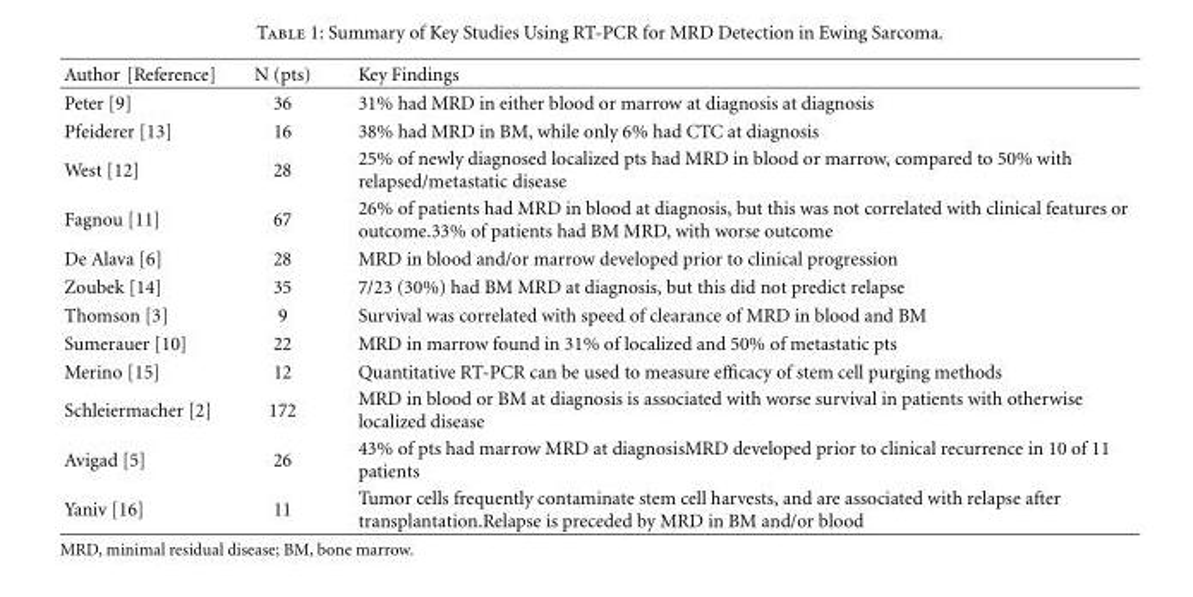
<table><thead><tr><td>Author [Reference]</td><td>N (pts)</td><td>Key Findings</td></tr></thead><tbody><tr><td>Peter [9]</td><td>36</td><td>31% had MRD in either blood or marrow at diagnosis at diagnosis</td></tr><tr><td>Pfeiderer [13]</td><td>16</td><td>38% had MRD in BM, while only 6% had CTC at diagnosis</td></tr><tr><td>West [12]</td><td>28</td><td>25% of newly diagnosed localized pts had MRD in blood or marrow, compared to 50% with relapsed/metastatic disease</td></tr><tr><td>Fagnou [11]</td><td>67</td><td>26% of patients had MRD in blood at diagnosis, but this was not correlated with clinical features or outcome.33% of patients had BM MRD, with worse outcome</td></tr><tr><td>De Alava [6]</td><td>28</td><td>MRD in blood and/or marrow developed prior to clinical progression</td></tr><tr><td>Zoubek [14]</td><td>35</td><td>7/23 (30%) had BM MRD at diagnosis, but this did not predict relapse</td></tr><tr><td>Thomson [3]</td><td>9</td><td>Survival was correlated with speed of clearance of MRD in blood and BM</td></tr><tr><td>Sumerauer [10]</td><td>22</td><td>MRD in marrow found in 31% of localized and 50% of metastatic pts</td></tr><tr><td>Merino [15]</td><td>12</td><td>Quantitative RT-PCR can be used to measure efficacy of stem cell purging methods</td></tr><tr><td>Schleiermacher [2]</td><td>172</td><td>MRD in blood or BM at diagnosis is associated with worse survival in patients with otherwise localized disease</td></tr><tr><td>Avigad [5]</td><td>26</td><td>43% of pts had marrow MRD at diagnosisMRD developed prior to clinical recurrence in 10 of 11 patients</td></tr><tr><td>Yaniv [16]</td><td>11</td><td>Tumor cells frequently contaminate stem cell harvests, and are associated with relapse after transplantation.Relapse is preceded by MRD in BM and/or blood</td></tr></tbody></table>